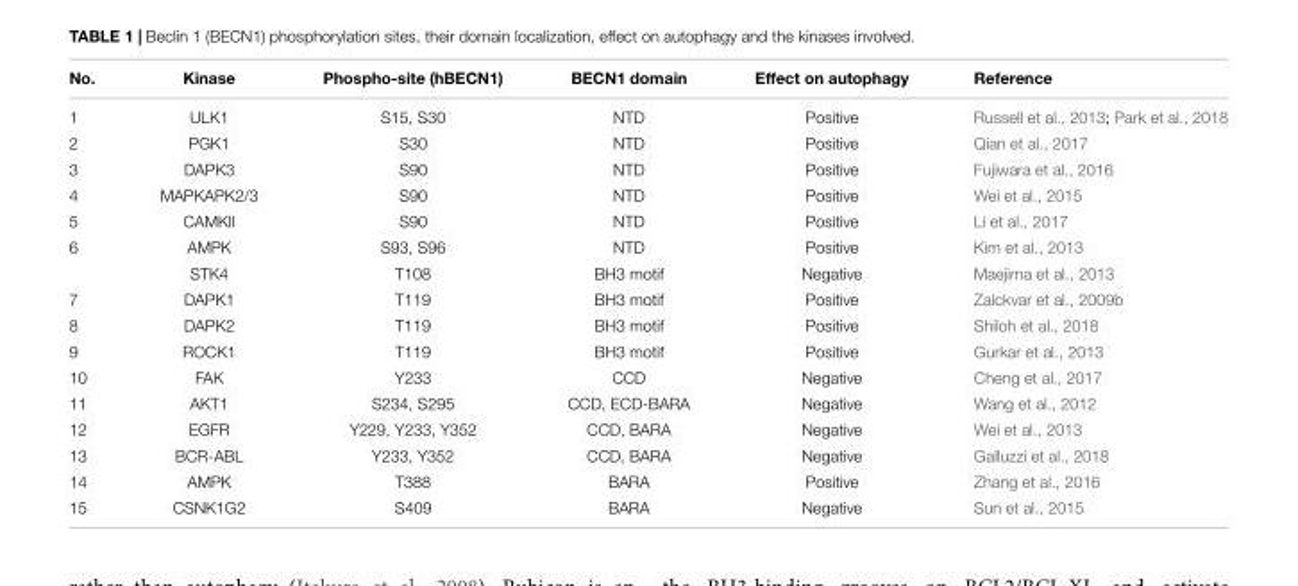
<table><thead><tr><td>No.</td><td>Kinase</td><td>Phospho-site (hBECN1)</td><td>BECN1 domain</td><td>Effect on autophagy</td><td>Reference</td></tr></thead><tbody><tr><td>1</td><td>ULK1</td><td>S15, S30</td><td>NTD</td><td>Positive</td><td>Russell et al., 2013; Park et al., 2018</td></tr><tr><td>2</td><td>PGK1</td><td>S30</td><td>NTD</td><td>Positive</td><td>Qian et al., 2017</td></tr><tr><td>3</td><td>DAPK3</td><td>S90</td><td>NTD</td><td>Positive</td><td>Fujiwara et al., 2016</td></tr><tr><td>4</td><td>MAPKAPK2/3</td><td>S90</td><td>NTD</td><td>Positive</td><td>Wei et al., 2015</td></tr><tr><td>5</td><td>CAMKII</td><td>S90</td><td>NTD</td><td>Positive</td><td>Li et al., 2017</td></tr><tr><td rowspan="2">6</td><td>AMPK</td><td>S93, S96</td><td>NTD</td><td>Positive</td><td>Kim et al., 2013</td></tr><tr><td>STK4</td><td>T108</td><td>BH3 motif</td><td>Negative</td><td>Maejima et al., 2013</td></tr><tr><td>7</td><td>DAPK1</td><td>T119</td><td>BH3 motif</td><td>Positive</td><td>Zalckvar et al., 2009b</td></tr><tr><td>8</td><td>DAPK2</td><td>T119</td><td>BH3 motif</td><td>Positive</td><td>Shiloh et al., 2018</td></tr><tr><td>9</td><td>ROCK1</td><td>T119</td><td>BH3 motif</td><td>Positive</td><td>Gurkar et al., 2013</td></tr><tr><td>10</td><td>FAK</td><td>Y233</td><td>CCD</td><td>Negative</td><td>Cheng et al., 2017</td></tr><tr><td>11</td><td>AKT1</td><td>S234, S295</td><td>CCD, ECD-BARA</td><td>Negative</td><td>Wang et al., 2012</td></tr><tr><td>12</td><td>EGFR</td><td>Y229, Y233, Y352</td><td>CCD, BARA</td><td>Negative</td><td>Wei et al., 2013</td></tr><tr><td>13</td><td>BCR-ABL</td><td>Y233, Y352</td><td>CCD, BARA</td><td>Negative</td><td>Galluzzi et al., 2018</td></tr><tr><td>14</td><td>AMPK</td><td>T388</td><td>BARA</td><td>Positive</td><td>Zhang et al., 2016</td></tr><tr><td>15</td><td>CSNK1G2</td><td>S409</td><td>BARA</td><td>Negative</td><td>Sun et al., 2015</td></tr></tbody></table>